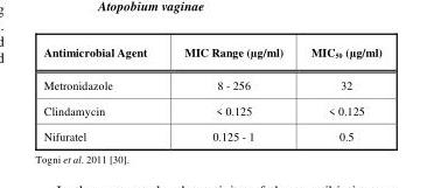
<table><thead><tr><td>Antimicrobial Agent</td><td>MIC Range (µg/ml)</td><td>MIC<sub>50</sub> (µg/ml)</td></tr></thead><tbody><tr><td>Metronidazole</td><td>8 - 256</td><td>32</td></tr><tr><td>Clindamycin</td><td>&lt; 0.125</td><td>&lt; 0.125</td></tr><tr><td>Nifuratel</td><td>0.125 - 1</td><td>0.5</td></tr></tbody></table>